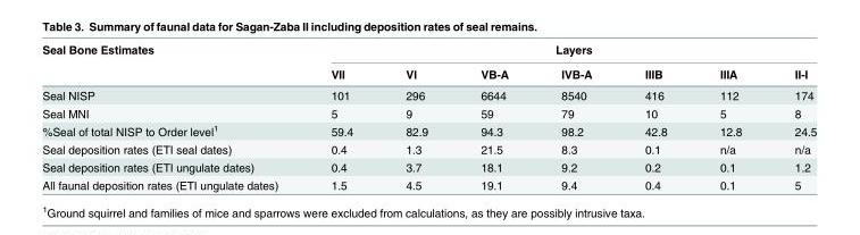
<table><thead><tr><td rowspan="2">Seal Bone Estimates</td><td colspan="7">Layers</td></tr><tr><td>VII</td><td>VI</td><td>VB-A</td><td>IVB-A</td><td>IIIB</td><td>IIIA</td><td>II-I</td></tr></thead><tbody><tr><td>Seal NISP</td><td>101</td><td>296</td><td>6644</td><td>8540</td><td>416</td><td>112</td><td>174</td></tr><tr><td>Seal MNI</td><td>5</td><td>9</td><td>59</td><td>79</td><td>10</td><td>5</td><td>8</td></tr><tr><td>%Seal of total NISP to Order level<sup>1</sup></td><td>59.4</td><td>82.9</td><td>94.3</td><td>98.2</td><td>42.8</td><td>12.8</td><td>24.5</td></tr><tr><td>Seal deposition rates (ETI seal dates)</td><td>0.4</td><td>1.3</td><td>21.5</td><td>8.3</td><td>0.1</td><td>n/a</td><td>n/a</td></tr><tr><td>Seal deposition rates (ETI ungulate dates)</td><td>0.4</td><td>3.7</td><td>18.1</td><td>9.2</td><td>0.2</td><td>0.1</td><td>1.2</td></tr><tr><td>All faunal deposition rates (ETI ungulate dates)</td><td>1.5</td><td>4.5</td><td>19.1</td><td>9.4</td><td>0.4</td><td>0.1</td><td>5</td></tr></tbody></table>